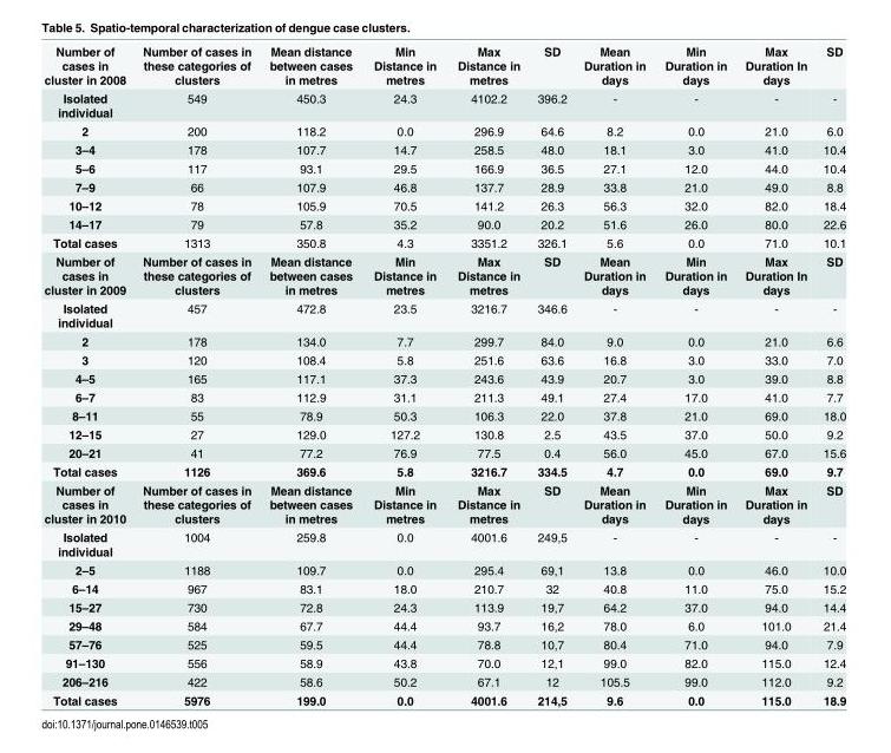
<table><tbody><tr><td>Number of cases in cluster in 2008</td><td>Number of cases in these categories of clusters</td><td>Mean distance between cases in metres</td><td>Min Distance in metres</td><td>Max Distance in metres</td><td>SD</td><td>Mean Duration in days</td><td>Min Duration in days</td><td>Max Duration In days</td><td>SD</td></tr><tr><td>Isolated individual</td><td>549</td><td>450.3</td><td>24.3</td><td>4102.2</td><td>396.2</td><td>-</td><td>-</td><td>-</td><td>-</td></tr><tr><td>2</td><td>200</td><td>118.2</td><td>0.0</td><td>296.9</td><td>64.6</td><td>8.2</td><td>0.0</td><td>21.0</td><td>6.0</td></tr><tr><td>3–4</td><td>178</td><td>107.7</td><td>14.7</td><td>258.5</td><td>48.0</td><td>18.1</td><td>3.0</td><td>41.0</td><td>10.4</td></tr><tr><td>5–6</td><td>117</td><td>93.1</td><td>29.5</td><td>166.9</td><td>36.5</td><td>27.1</td><td>12.0</td><td>44.0</td><td>10.4</td></tr><tr><td>7–9</td><td>66</td><td>107.9</td><td>46.8</td><td>137.7</td><td>28.9</td><td>33.8</td><td>21.0</td><td>49.0</td><td>8.8</td></tr><tr><td>10–12</td><td>78</td><td>105.9</td><td>70.5</td><td>141.2</td><td>26.3</td><td>56.3</td><td>32.0</td><td>82.0</td><td>18.4</td></tr><tr><td>14–17</td><td>79</td><td>57.8</td><td>35.2</td><td>90.0</td><td>20.2</td><td>51.6</td><td>26.0</td><td>80.0</td><td>22.6</td></tr><tr><td>Total cases</td><td>1313</td><td>350.8</td><td>4.3</td><td>3351.2</td><td>326.1</td><td>5.6</td><td>0.0</td><td>71.0</td><td>10.1</td></tr><tr><td>Number of cases in cluster in 2009</td><td>Number of cases in these categories of clusters</td><td>Mean distance between cases in metres</td><td>Min Distance in metres</td><td>Max Distance in metres</td><td>SD</td><td>Mean Duration in days</td><td>Min Duration in days</td><td>Max Duration In days</td><td>SD</td></tr><tr><td>Isolated individual</td><td>457</td><td>472.8</td><td>23.5</td><td>3216.7</td><td>346.6</td><td>-</td><td>-</td><td>-</td><td>-</td></tr><tr><td>2</td><td>178</td><td>134.0</td><td>7.7</td><td>299.7</td><td>84.0</td><td>9.0</td><td>0.0</td><td>21.0</td><td>6.6</td></tr><tr><td>3</td><td>120</td><td>108.4</td><td>5.8</td><td>251.6</td><td>63.6</td><td>16.8</td><td>3.0</td><td>33.0</td><td>7.0</td></tr><tr><td>4–5</td><td>165</td><td>117.1</td><td>37.3</td><td>243.6</td><td>43.9</td><td>20.7</td><td>3.0</td><td>39.0</td><td>8.8</td></tr><tr><td>6–7</td><td>83</td><td>112.9</td><td>31.1</td><td>211.3</td><td>49.1</td><td>27.4</td><td>17.0</td><td>41.0</td><td>7.7</td></tr><tr><td>8–11</td><td>55</td><td>78.9</td><td>50.3</td><td>106.3</td><td>22.0</td><td>37.8</td><td>21.0</td><td>69.0</td><td>18.0</td></tr><tr><td>12–15</td><td>27</td><td>129.0</td><td>127.2</td><td>130.8</td><td>2.5</td><td>43.5</td><td>37.0</td><td>50.0</td><td>9.2</td></tr><tr><td>20–21</td><td>41</td><td>77.2</td><td>76.9</td><td>77.5</td><td>0.4</td><td>56.0</td><td>45.0</td><td>67.0</td><td>15.6</td></tr><tr><td>Total cases</td><td>1126</td><td>369.6</td><td>5.8</td><td>3216.7</td><td>334.5</td><td>4.7</td><td>0.0</td><td>69.0</td><td>9.7</td></tr><tr><td>Number of cases in cluster in 2010</td><td>Number of cases in these categories of clusters</td><td>Mean distance between cases in metres</td><td>Min Distance in metres</td><td>Max Distance in metres</td><td>SD</td><td>Mean Duration in days</td><td>Min Duration in days</td><td>Max Duration in days</td><td>SD</td></tr><tr><td>Isolated individual</td><td>1004</td><td>259.8</td><td>0.0</td><td>4001.6</td><td>249,5</td><td>-</td><td>-</td><td>-</td><td>-</td></tr><tr><td>2–5</td><td>1188</td><td>109.7</td><td>0.0</td><td>295.4</td><td>69,1</td><td>13.8</td><td>0.0</td><td>46.0</td><td>10.0</td></tr><tr><td>6–14</td><td>967</td><td>83.1</td><td>18.0</td><td>210.7</td><td>32</td><td>40.8</td><td>11.0</td><td>75.0</td><td>15.2</td></tr><tr><td>15–27</td><td>730</td><td>72.8</td><td>24.3</td><td>113.9</td><td>19,7</td><td>64.2</td><td>37.0</td><td>94.0</td><td>14.4</td></tr><tr><td>29–48</td><td>584</td><td>67.7</td><td>44.4</td><td>93.7</td><td>16,2</td><td>78.0</td><td>6.0</td><td>101.0</td><td>21.4</td></tr><tr><td>57–76</td><td>525</td><td>59.5</td><td>44.4</td><td>78.8</td><td>10,7</td><td>80.4</td><td>71.0</td><td>94.0</td><td>7.9</td></tr><tr><td>91–130</td><td>556</td><td>58.9</td><td>43.8</td><td>70.0</td><td>12,1</td><td>99.0</td><td>82.0</td><td>115.0</td><td>12.4</td></tr><tr><td>206–216</td><td>422</td><td>58.6</td><td>50.2</td><td>67.1</td><td>12</td><td>105.5</td><td>99.0</td><td>112.0</td><td>9.2</td></tr><tr><td>Total cases</td><td>5976</td><td>199.0</td><td>0.0</td><td>4001.6</td><td>214,5</td><td>9.6</td><td>0.0</td><td>115.0</td><td>18.9</td></tr></tbody></table>